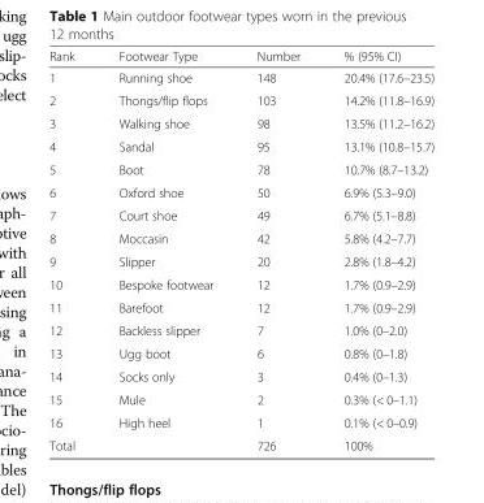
<table><thead><tr><td>Rank</td><td>Footwear Type</td><td>Number</td><td>% (95% CI)</td></tr></thead><tbody><tr><td>1</td><td>Running shoe</td><td>148</td><td>20.4% (17.6–23.5)</td></tr><tr><td>2</td><td>Thongs/flip flops</td><td>103</td><td>14.2% (11.8–16.9)</td></tr><tr><td>3</td><td>Walking shoe</td><td>98</td><td>13.5% (11.2–16.2)</td></tr><tr><td>4</td><td>Sandal</td><td>95</td><td>13.1% (10.8–15.7)</td></tr><tr><td>5</td><td>Boot</td><td>78</td><td>10.7% (8.7–13.2)</td></tr><tr><td>6</td><td>Oxford shoe</td><td>50</td><td>6.9% (5.3–9.0)</td></tr><tr><td>7</td><td>Court shoe</td><td>49</td><td>6.7% (5.1–8.8)</td></tr><tr><td>8</td><td>Moccasin</td><td>42</td><td>5.8% (4.2–7.7)</td></tr><tr><td>9</td><td>Slipper</td><td>20</td><td>2.8% (1.8–4.2)</td></tr><tr><td>10</td><td>Bespoke footwear</td><td>12</td><td>1.7% (0.9–2.9)</td></tr><tr><td>11</td><td>Barefoot</td><td>12</td><td>1.7% (0.9–2.9)</td></tr><tr><td>12</td><td>Backless slipper</td><td>7</td><td>1.0% (0–2.0)</td></tr><tr><td>13</td><td>Ugg boot</td><td>6</td><td>0.8% (0–1.8)</td></tr><tr><td>14</td><td>Socks only</td><td>3</td><td>0.4% (0–1.3)</td></tr><tr><td>15</td><td>Mule</td><td>2</td><td>0.3% (&lt; 0–1.1)</td></tr><tr><td>16</td><td>High heel</td><td>1</td><td>0.1% (&lt; 0–0.9)</td></tr><tr><td>Total</td><td></td><td>726</td><td>100%</td></tr></tbody></table>